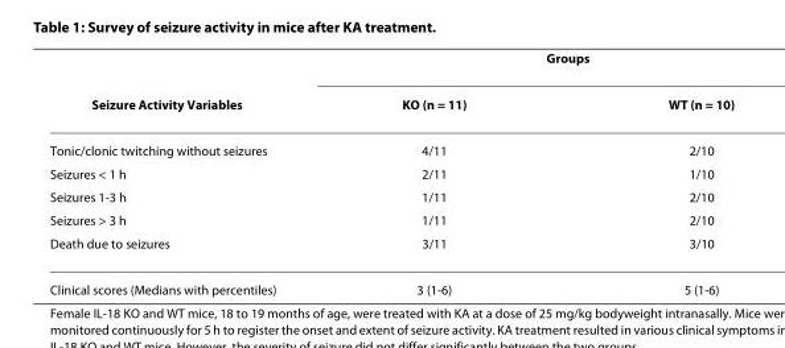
<table><thead><tr><td rowspan="2">Seizure Activity Variables</td><td colspan="2">Groups</td></tr><tr><td>KO (n = 11)</td><td>WT (n = 10)</td></tr></thead><tbody><tr><td>Tonic/clonic twitching without seizures</td><td>4/11</td><td>2/10</td></tr><tr><td>Seizures &lt; 1 h</td><td>2/11</td><td>1/10</td></tr><tr><td>Seizures 1-3 h</td><td>1/11</td><td>2/10</td></tr><tr><td>Seizures &gt; 3 h</td><td>1/11</td><td>2/10</td></tr><tr><td>Death due to seizures</td><td>3/11</td><td>3/10</td></tr><tr><td>Clinical scores (Medians with percentiles)</td><td>3 (1-6)</td><td>5 (1-6)</td></tr></tbody></table>